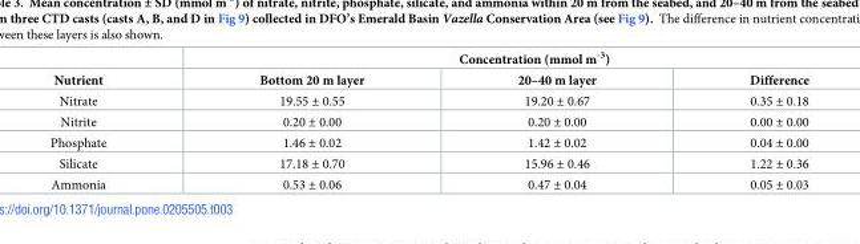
<table><thead><tr><td rowspan="2">Nutrient</td><td colspan="3">Concentration (mmol m<sup>-3</sup>)</td></tr><tr><td>Bottom 20 m layer</td><td>20–40 m layer</td><td>Difference</td></tr></thead><tbody><tr><td>Nitrate</td><td>19.55 ± 0.55</td><td>19.20 ± 0.67</td><td>0.35 ± 0.18</td></tr><tr><td>Nitrite</td><td>0.20 ± 0.00</td><td>0.20 ± 0.00</td><td>0.00 ± 0.00</td></tr><tr><td>Phosphate</td><td>1.46 ± 0.02</td><td>1.42 ± 0.02</td><td>0.04 ± 0.00</td></tr><tr><td>Silicate</td><td>17.18 ± 0.70</td><td>15.96 ± 0.46</td><td>1.22 ± 0.36</td></tr><tr><td>Ammonia</td><td>0.53 ± 0.06</td><td>0.47 ± 0.04</td><td>0.05 ± 0.03</td></tr></tbody></table>